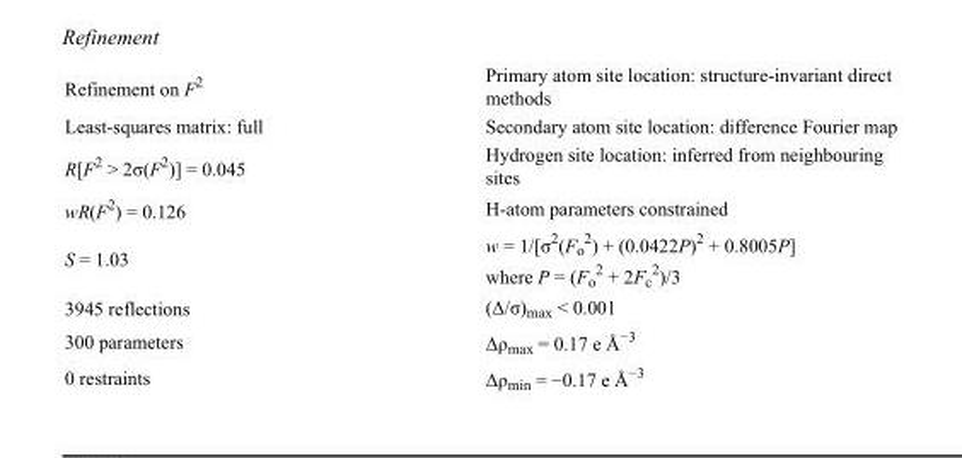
<table><tbody><tr><td>Refinement on F<sup>2</sup></td><td>Primary atom site location: structure-invariant direct methods</td></tr><tr><td>Least-squares matrix: full</td><td>Secondary atom site location: difference Fourier map</td></tr><tr><td>R[F<sup>2</sup> &gt; 2σ(F<sup>2</sup>)] = 0.045</td><td>Hydrogen site location: inferred from neighbouring sites</td></tr><tr><td>wR(F<sup>2</sup>) = 0.126</td><td>H-atom parameters constrained</td></tr><tr><td>S = 1.03</td><td>w = 1/[σ<sup>2</sup>(F<sub>o</sub> <sup>2</sup>) + (0.0422P)<sup>2</sup> + 0.8005P] where P = (F<sub>o</sub> <sup>2</sup> + 2F<sub>c</sub> <sup>2</sup>)/3</td></tr><tr><td>3945 reflections</td><td>(Δ/σ)<sub>max</sub> &lt; 0.001</td></tr><tr><td>300 parameters</td><td>Δρ<sub>max</sub> = 0.17 e Å<sup>−3</sup></td></tr><tr><td>0 restraints</td><td>Δρ<sub>min</sub> = −0.17 e Å<sup>−3</sup></td></tr></tbody></table>